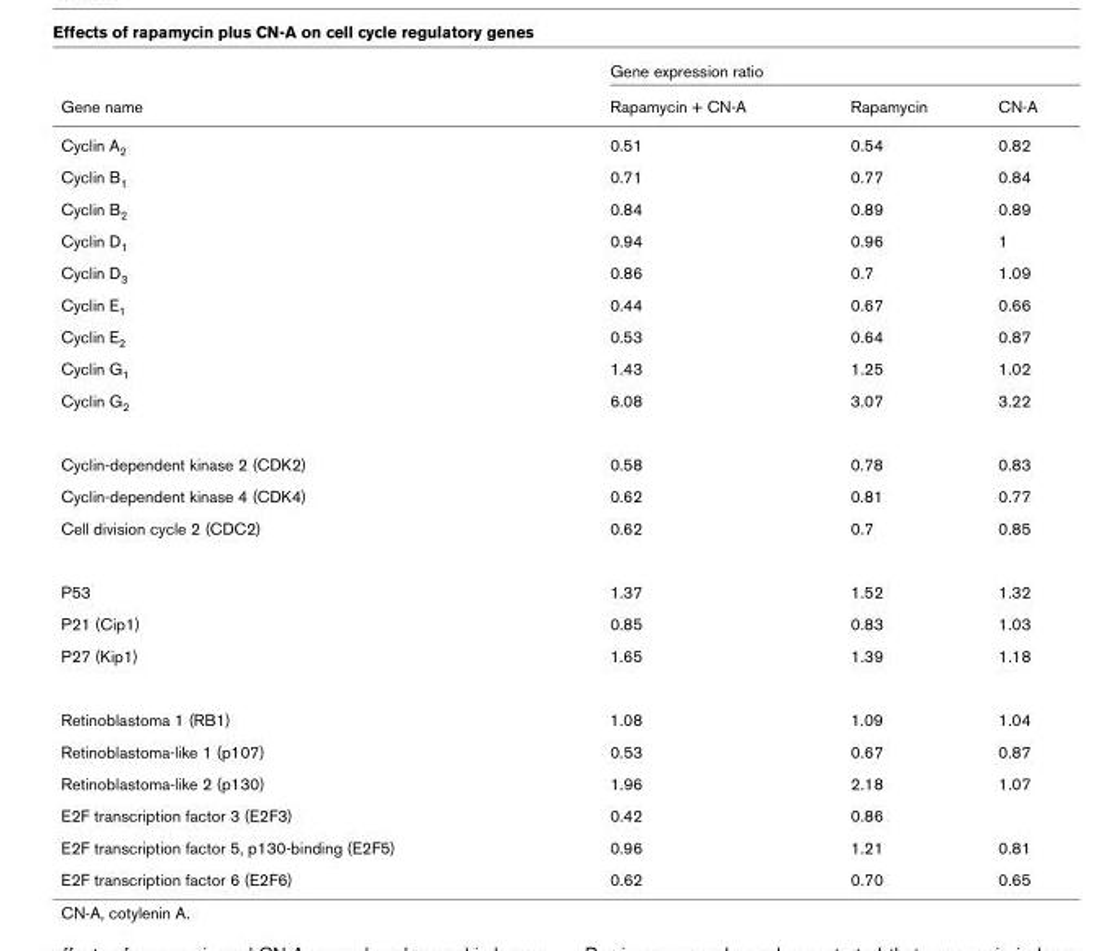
<table><thead><tr><td rowspan="2">Gene name</td><td colspan="3">Gene expression ratio</td></tr><tr><td>Rapamycin + CN-A</td><td>Rapamycin</td><td>CN-A</td></tr></thead><tbody><tr><td>Cyclin A2</td><td>0.51</td><td>0.54</td><td>0.82</td></tr><tr><td>Cyclin B1</td><td>0.71</td><td>0.77</td><td>0.84</td></tr><tr><td>Cyclin B2</td><td>0.84</td><td>0.89</td><td>0.89</td></tr><tr><td>Cyclin D1</td><td>0.94</td><td>0.96</td><td>1</td></tr><tr><td>Cyclin D3</td><td>0.86</td><td>0.7</td><td>1.09</td></tr><tr><td>Cyclin E1</td><td>0.44</td><td>0.67</td><td>0.66</td></tr><tr><td>Cyclin E2</td><td>0.53</td><td>0.64</td><td>0.87</td></tr><tr><td>Cyclin G1</td><td>1.43</td><td>1.25</td><td>1.02</td></tr><tr><td>Cyclin G2</td><td>6.08</td><td>3.07</td><td>3.22</td></tr><tr><td>Cyclin-dependent kinase 2 (CDK2)</td><td>0.58</td><td>0.78</td><td>0.83</td></tr><tr><td>Cyclin-dependent kinase 4 (CDK4)</td><td>0.62</td><td>0.81</td><td>0.77</td></tr><tr><td>Cell division cycle 2 (CDC2)</td><td>0.62</td><td>0.7</td><td>0.85</td></tr><tr><td>P53</td><td>1.37</td><td>1.52</td><td>1.32</td></tr><tr><td>P21 (Cip1)</td><td>0.85</td><td>0.83</td><td>1.03</td></tr><tr><td>P27 (Kip1)</td><td>1.65</td><td>1.39</td><td>1.18</td></tr><tr><td>Retinoblastoma 1 (RB1)</td><td>1.08</td><td>1.09</td><td>1.04</td></tr><tr><td>Retinoblastoma-like 1 (p107)</td><td>0.53</td><td>0.67</td><td>0.87</td></tr><tr><td>Retinoblastoma-like 2 (p130)</td><td>1.96</td><td>2.18</td><td>1.07</td></tr><tr><td>E2F transcription factor 3 (E2F3)</td><td>0.42</td><td>0.86</td><td></td></tr><tr><td>E2F transcription factor 5, p130-binding (E2F5)</td><td>0.96</td><td>1.21</td><td>0.81</td></tr><tr><td>E2F transcription factor 6 (E2F6)</td><td>0.62</td><td>0.70</td><td>0.65</td></tr></tbody></table>